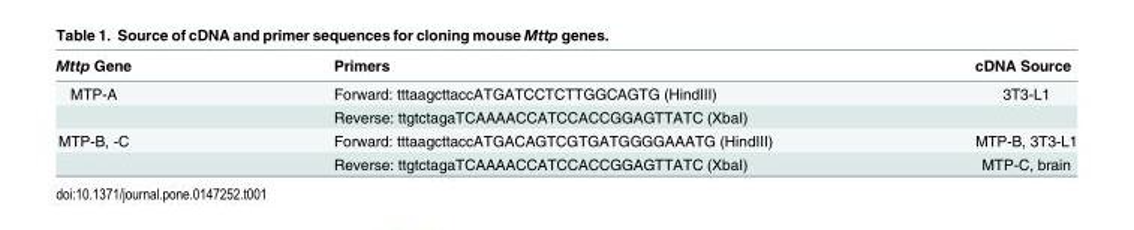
<table><thead><tr><td>Mttp Gene</td><td>Primers</td><td>cDNA Source</td></tr></thead><tbody><tr><td rowspan="2">MTP-A</td><td>Forward: tttaagcttaccATGATCCTCTTGGCAGTG (HindIII)</td><td>3T3-L1</td></tr><tr><td>Reverse: ttgtctagaTCAAAACCATCCACCGGAGTTATC (XbaI)</td><td></td></tr><tr><td rowspan="2">MTP-B, -C</td><td>Forward: tttaagcttaccATGACAGTCGTGATGGGGAAATG (HindIII)</td><td>MTP-B, 3T3-L1</td></tr><tr><td>Reverse: ttgtctagaTCAAAACCATCCACCGGAGTTATC (XbaI)</td><td>MTP-C, brain</td></tr></tbody></table>